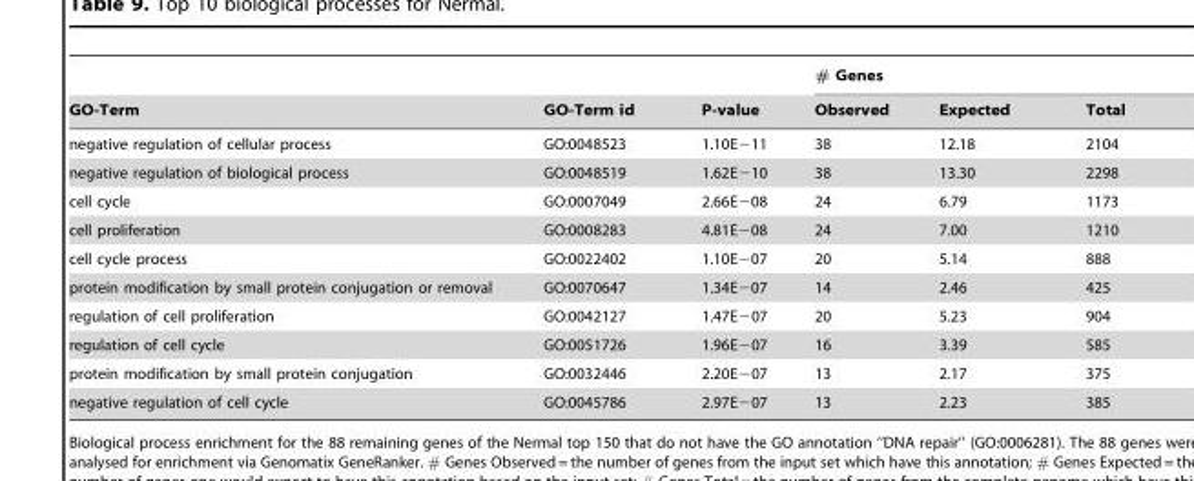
<table><thead><tr><td rowspan="2">GO-Term</td><td rowspan="2">GO-Term id</td><td rowspan="2">P-value</td><td colspan="3"># Genes</td></tr><tr><td>Observed</td><td>Expected</td><td>Total</td></tr></thead><tbody><tr><td>negative regulation of cellular process</td><td>GO:0048523</td><td>1.10E−11</td><td>38</td><td>12.18</td><td>2104</td></tr><tr><td>negative regulation of biological process</td><td>GO:0048519</td><td>1.62E−10</td><td>38</td><td>13.30</td><td>2298</td></tr><tr><td>cell cycle</td><td>GO:0007049</td><td>2.66E−08</td><td>24</td><td>6.79</td><td>1173</td></tr><tr><td>cell proliferation</td><td>GO:0008283</td><td>4.81E−08</td><td>24</td><td>7.00</td><td>1210</td></tr><tr><td>cell cycle process</td><td>GO:0022402</td><td>1.10E−07</td><td>20</td><td>5.14</td><td>888</td></tr><tr><td>protein modification by small protein conjugation or removal</td><td>GO:0070647</td><td>1.34E−07</td><td>14</td><td>2.46</td><td>425</td></tr><tr><td>regulation of cell proliferation</td><td>GO:0042127</td><td>1.47E−07</td><td>20</td><td>5.23</td><td>904</td></tr><tr><td>regulation of cell cycle</td><td>GO:0051726</td><td>1.96E−07</td><td>16</td><td>3.39</td><td>585</td></tr><tr><td>protein modification by small protein conjugation</td><td>GO:0032446</td><td>2.20E−07</td><td>13</td><td>2.17</td><td>375</td></tr><tr><td>negative regulation of cell cycle</td><td>GO:0045786</td><td>2.97E−07</td><td>13</td><td>2.23</td><td>385</td></tr></tbody></table>